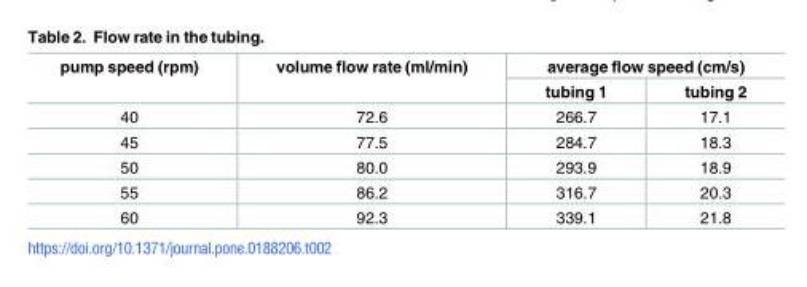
<table><thead><tr><td rowspan="2">pump speed (rpm)</td><td rowspan="2">volume flow rate (ml/min)</td><td colspan="2">average flow speed (cm/s)</td></tr><tr><td>tubing 1</td><td>tubing 2</td></tr></thead><tbody><tr><td>40</td><td>72.6</td><td>266.7</td><td>17.1</td></tr><tr><td>45</td><td>77.5</td><td>284.7</td><td>18.3</td></tr><tr><td>50</td><td>80.0</td><td>293.9</td><td>18.9</td></tr><tr><td>55</td><td>86.2</td><td>316.7</td><td>20.3</td></tr><tr><td>60</td><td>92.3</td><td>339.1</td><td>21.8</td></tr></tbody></table>